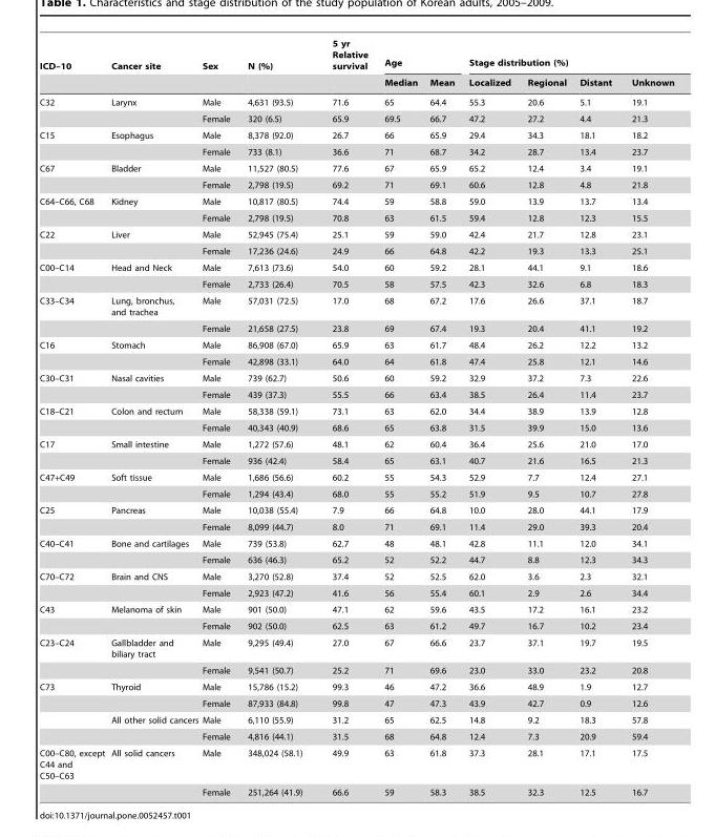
<table><thead><tr><td rowspan="2">ICD–10</td><td rowspan="2">Cancer site</td><td rowspan="2">Sex</td><td rowspan="2">N (%)</td><td rowspan="2">5 yr Relative survival</td><td colspan="2">Age</td><td colspan="4">Stage distribution (%)</td></tr><tr><td>Median</td><td>Mean</td><td>Localized</td><td>Regional</td><td>Distant</td><td>Unknown</td></tr></thead><tbody><tr><td rowspan="2">C32</td><td>Larynx</td><td>Male</td><td>4,631 (93.5)</td><td>71.6</td><td>65</td><td>64.4</td><td>55.3</td><td>20.6</td><td>5.1</td><td>19.1</td></tr><tr><td></td><td>Female</td><td>320 (6.5)</td><td>65.9</td><td>69.5</td><td>66.7</td><td>47.2</td><td>27.2</td><td>4.4</td><td>21.3</td></tr><tr><td rowspan="2">C15</td><td>Esophagus</td><td>Male</td><td>8,378 (92.0)</td><td>26.7</td><td>66</td><td>65.9</td><td>29.4</td><td>34.3</td><td>18.1</td><td>18.2</td></tr><tr><td></td><td>Female</td><td>733 (8.1)</td><td>36.6</td><td>71</td><td>68.7</td><td>34.2</td><td>28.7</td><td>13.4</td><td>23.7</td></tr><tr><td rowspan="2">C67</td><td>Bladder</td><td>Male</td><td>11,527 (80.5)</td><td>77.6</td><td>67</td><td>65.9</td><td>65.2</td><td>12.4</td><td>3.4</td><td>19.1</td></tr><tr><td></td><td>Female</td><td>2,798 (19.5)</td><td>69.2</td><td>71</td><td>69.1</td><td>60.6</td><td>12.8</td><td>4.8</td><td>21.8</td></tr><tr><td rowspan="2">C64–C66, C68</td><td>Kidney</td><td>Male</td><td>10,817 (80.5)</td><td>74.4</td><td>59</td><td>58.8</td><td>59.0</td><td>13.9</td><td>13.7</td><td>13.4</td></tr><tr><td></td><td>Female</td><td>2,798 (19.5)</td><td>70.8</td><td>63</td><td>61.5</td><td>59.4</td><td>12.8</td><td>12.3</td><td>15.5</td></tr><tr><td rowspan="2">C22</td><td>Liver</td><td>Male</td><td>52,945 (75.4)</td><td>25.1</td><td>59</td><td>59.0</td><td>42.4</td><td>21.7</td><td>12.8</td><td>23.1</td></tr><tr><td></td><td>Female</td><td>17,236 (24.6)</td><td>24.9</td><td>66</td><td>64.8</td><td>42.2</td><td>19.3</td><td>13.3</td><td>25.1</td></tr><tr><td rowspan="2">C00–C14</td><td>Head and Neck</td><td>Male</td><td>7,613 (73.6)</td><td>54.0</td><td>60</td><td>59.2</td><td>28.1</td><td>44.1</td><td>9.1</td><td>18.6</td></tr><tr><td></td><td>Female</td><td>2,733 (26.4)</td><td>70.5</td><td>58</td><td>57.5</td><td>42.3</td><td>32.6</td><td>6.8</td><td>18.3</td></tr><tr><td rowspan="2">C33–C34</td><td>Lung, bronchus, and trachea</td><td>Male</td><td>57,031 (72.5)</td><td>17.0</td><td>68</td><td>67.2</td><td>17.6</td><td>26.6</td><td>37.1</td><td>18.7</td></tr><tr><td></td><td>Female</td><td>21,658 (27.5)</td><td>23.8</td><td>69</td><td>67.4</td><td>19.3</td><td>20.4</td><td>41.1</td><td>19.2</td></tr><tr><td rowspan="2">C16</td><td>Stomach</td><td>Male</td><td>86,908 (67.0)</td><td>65.9</td><td>63</td><td>61.7</td><td>48.4</td><td>26.2</td><td>12.2</td><td>13.2</td></tr><tr><td></td><td>Female</td><td>42,898 (33.1)</td><td>64.0</td><td>64</td><td>61.8</td><td>47.4</td><td>25.8</td><td>12.1</td><td>14.6</td></tr><tr><td rowspan="2">C30–C31</td><td>Nasal cavities</td><td>Male</td><td>739 (62.7)</td><td>50.6</td><td>60</td><td>59.2</td><td>32.9</td><td>37.2</td><td>7.3</td><td>22.6</td></tr><tr><td></td><td>Female</td><td>439 (37.3)</td><td>55.5</td><td>66</td><td>63.4</td><td>38.5</td><td>26.4</td><td>11.4</td><td>23.7</td></tr><tr><td rowspan="2">C18–C21</td><td>Colon and rectum</td><td>Male</td><td>58,338 (59.1)</td><td>73.1</td><td>63</td><td>62.0</td><td>34.4</td><td>38.9</td><td>13.9</td><td>12.8</td></tr><tr><td></td><td>Female</td><td>40,343 (40.9)</td><td>68.6</td><td>65</td><td>63.8</td><td>31.5</td><td>39.9</td><td>15.0</td><td>13.6</td></tr><tr><td rowspan="2">C17</td><td>Small intestine</td><td>Male</td><td>1,272 (57.6)</td><td>48.1</td><td>62</td><td>60.4</td><td>36.4</td><td>25.6</td><td>21.0</td><td>17.0</td></tr><tr><td></td><td>Female</td><td>936 (42.4)</td><td>58.4</td><td>65</td><td>63.1</td><td>40.7</td><td>21.6</td><td>16.5</td><td>21.3</td></tr><tr><td rowspan="2">C47+C49</td><td>Soft tissue</td><td>Male</td><td>1,686 (56.6)</td><td>60.2</td><td>55</td><td>54.3</td><td>52.9</td><td>7.7</td><td>12.4</td><td>27.1</td></tr><tr><td></td><td>Female</td><td>1,294 (43.4)</td><td>68.0</td><td>55</td><td>55.2</td><td>51.9</td><td>9.5</td><td>10.7</td><td>27.8</td></tr><tr><td rowspan="2">C25</td><td>Pancreas</td><td>Male</td><td>10,038 (55.4)</td><td>7.9</td><td>66</td><td>64.8</td><td>10.0</td><td>28.0</td><td>44.1</td><td>17.9</td></tr><tr><td></td><td>Female</td><td>8,099 (44.7)</td><td>8.0</td><td>71</td><td>69.1</td><td>11.4</td><td>29.0</td><td>39.3</td><td>20.4</td></tr><tr><td rowspan="2">C40–C41</td><td>Bone and cartilages</td><td>Male</td><td>739 (53.8)</td><td>62.7</td><td>48</td><td>48.1</td><td>42.8</td><td>11.1</td><td>12.0</td><td>34.1</td></tr><tr><td></td><td>Female</td><td>636 (46.3)</td><td>65.2</td><td>52</td><td>52.2</td><td>44.7</td><td>8.8</td><td>12.3</td><td>34.3</td></tr><tr><td rowspan="2">C70–C72</td><td>Brain and CNS</td><td>Male</td><td>3,270 (52.8)</td><td>37.4</td><td>52</td><td>52.5</td><td>62.0</td><td>3.6</td><td>2.3</td><td>32.1</td></tr><tr><td></td><td>Female</td><td>2,923 (47.2)</td><td>41.6</td><td>56</td><td>55.4</td><td>60.1</td><td>2.9</td><td>2.6</td><td>34.4</td></tr><tr><td rowspan="2">C43</td><td>Melanoma of skin</td><td>Male</td><td>901 (50.0)</td><td>47.1</td><td>62</td><td>59.6</td><td>43.5</td><td>17.2</td><td>16.1</td><td>23.2</td></tr><tr><td></td><td>Female</td><td>902 (50.0)</td><td>62.5</td><td>63</td><td>61.2</td><td>49.7</td><td>16.7</td><td>10.2</td><td>23.4</td></tr><tr><td rowspan="2">C23–C24</td><td>Gallbladder and biliary tract</td><td>Male</td><td>9,295 (49.4)</td><td>27.0</td><td>67</td><td>66.6</td><td>23.7</td><td>37.1</td><td>19.7</td><td>19.5</td></tr><tr><td></td><td>Female</td><td>9,541 (50.7)</td><td>25.2</td><td>71</td><td>69.6</td><td>23.0</td><td>33.0</td><td>23.2</td><td>20.8</td></tr><tr><td rowspan="4">C73</td><td>Thyroid</td><td>Male</td><td>15,786 (15.2)</td><td>99.3</td><td>46</td><td>47.2</td><td>36.6</td><td>48.9</td><td>1.9</td><td>12.7</td></tr><tr><td></td><td>Female</td><td>87,933 (84.8)</td><td>99.8</td><td>47</td><td>47.3</td><td>43.9</td><td>42.7</td><td>0.9</td><td>12.6</td></tr><tr><td>All other solid cancers</td><td>Male</td><td>6,110 (55.9)</td><td>31.2</td><td>65</td><td>62.5</td><td>14.8</td><td>9.2</td><td>18.3</td><td>57.8</td></tr><tr><td></td><td>Female</td><td>4,816 (44.1)</td><td>31.5</td><td>68</td><td>64.8</td><td>12.4</td><td>7.3</td><td>20.9</td><td>59.4</td></tr><tr><td rowspan="2">C00–C80, except C44 and C50–C63</td><td>All solid cancers</td><td>Male</td><td>348,024 (58.1)</td><td>49.9</td><td>63</td><td>61.8</td><td>37.3</td><td>28.1</td><td>17.1</td><td>17.5</td></tr><tr><td></td><td>Female</td><td>251,264 (41.9)</td><td>66.6</td><td>59</td><td>58.3</td><td>38.5</td><td>32.3</td><td>12.5</td><td>16.7</td></tr></tbody></table>